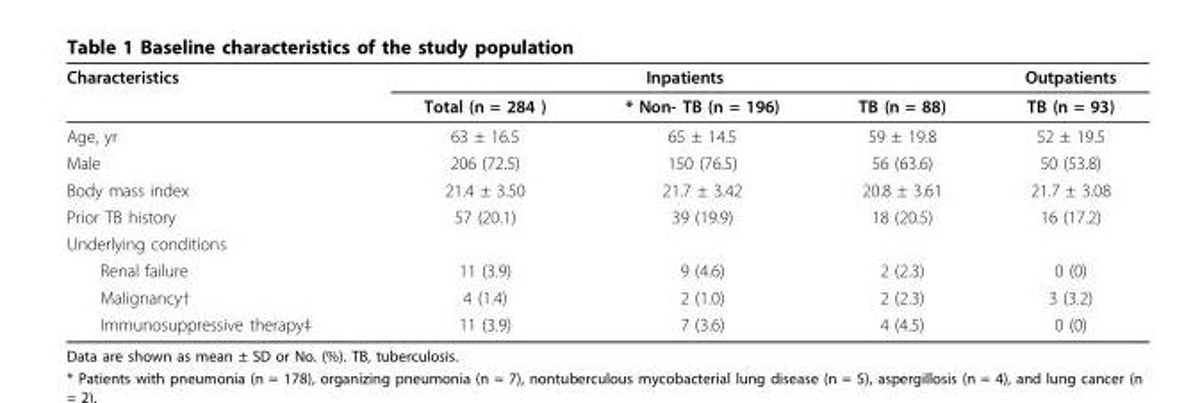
<table><thead><tr><td rowspan="2">Characteristics</td><td colspan="3">Inpatients</td><td rowspan="2">Outpatients TB (n = 93)</td></tr><tr><td>Total (n = 284 )</td><td>* Non- TB (n = 196)</td><td>TB (n = 88)</td></tr></thead><tbody><tr><td>Age, yr</td><td>63 ± 16.5</td><td>65 ± 14.5</td><td>59 ± 19.8</td><td>52 ± 19.5</td></tr><tr><td>Male</td><td>206 (72.5)</td><td>150 (76.5)</td><td>56 (63.6)</td><td>50 (53.8)</td></tr><tr><td>Body mass index</td><td>21.4 ± 3.50</td><td>21.7 ± 3.42</td><td>20.8 ± 3.61</td><td>21.7 ± 3.08</td></tr><tr><td>Prior TB history</td><td>57 (20.1)</td><td>39 (19.9)</td><td>18 (20.5)</td><td>16 (17.2)</td></tr><tr><td colspan="5">Underlying conditions</td></tr><tr><td>Renal failure</td><td>11 (3.9)</td><td>9 (4.6)</td><td>2 (2.3)</td><td>0 (0)</td></tr><tr><td>Malignancy†</td><td>4 (1.4)</td><td>2 (1.0)</td><td>2 (2.3)</td><td>3 (3.2)</td></tr><tr><td>Immunosuppressive therapy‡</td><td>11 (3.9)</td><td>7 (3.6)</td><td>4 (4.5)</td><td>0 (0)</td></tr></tbody></table>